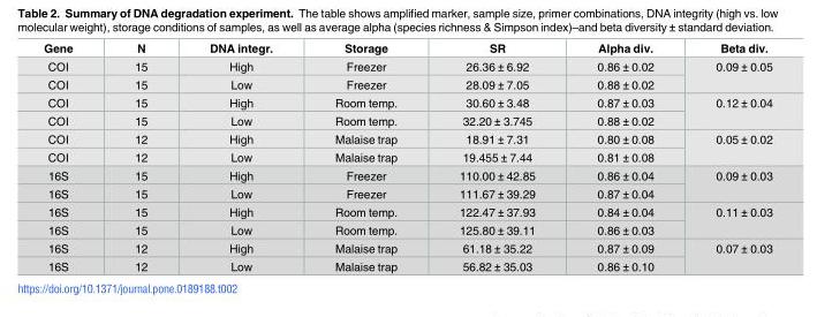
<table><thead><tr><td>Gene</td><td>N</td><td>DNA integr.</td><td>Storage</td><td>SR</td><td>Alpha div.</td><td>Beta div.</td></tr></thead><tbody><tr><td>COI</td><td>15</td><td>High</td><td>Freezer</td><td>26.36 ± 6.92</td><td>0.86 ± 0.02</td><td rowspan="2">0.09 ± 0.05</td></tr><tr><td>COI</td><td>15</td><td>Low</td><td>Freezer</td><td>28.09 ± 7.05</td><td>0.88 ± 0.02</td></tr><tr><td>COI</td><td>15</td><td>High</td><td>Room temp.</td><td>30.60 ± 3.48</td><td>0.87 ± 0.03</td><td rowspan="2">0.12 ± 0.04</td></tr><tr><td>COI</td><td>15</td><td>Low</td><td>Room temp.</td><td>32.20 ± 3.745</td><td>0.88 ± 0.02</td></tr><tr><td>COI</td><td>12</td><td>High</td><td>Malaise trap</td><td>18.91 ± 7.31</td><td>0.80 ± 0.08</td><td rowspan="2">0.05 ± 0.02</td></tr><tr><td>COI</td><td>12</td><td>Low</td><td>Malaise trap</td><td>19.455 ± 7.44</td><td>0.81 ± 0.08</td></tr><tr><td>16S</td><td>15</td><td>High</td><td>Freezer</td><td>110.00 ± 42.85</td><td>0.86 ± 0.04</td><td rowspan="2">0.09 ± 0.03</td></tr><tr><td>16S</td><td>15</td><td>Low</td><td>Freezer</td><td>111.67 ± 39.29</td><td>0.87 ± 0.04</td></tr><tr><td>16S</td><td>15</td><td>High</td><td>Room temp.</td><td>122.47 ± 37.93</td><td>0.84 ± 0.04</td><td rowspan="2">0.11 ± 0.03</td></tr><tr><td>16S</td><td>15</td><td>Low</td><td>Room temp.</td><td>125.80 ± 39.11</td><td>0.86 ± 0.03</td></tr><tr><td>16S</td><td>12</td><td>High</td><td>Malaise trap</td><td>61.18 ± 35.22</td><td>0.87 ± 0.09</td><td rowspan="2">0.07 ± 0.03</td></tr><tr><td>16S</td><td>12</td><td>Low</td><td>Malaise trap</td><td>56.82 ± 35.03</td><td>0.86 ± 0.10</td></tr></tbody></table>